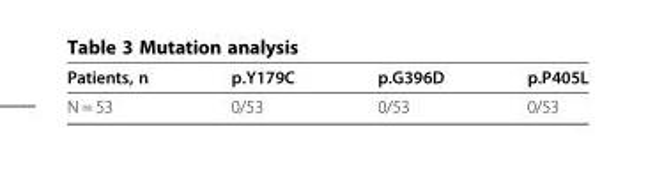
<table><thead><tr><td>Patients, n</td><td>p.Y179C</td><td>p.G396D</td><td>p.P405L</td></tr></thead><tbody><tr><td>N = 53</td><td>0/53</td><td>0/53</td><td>0/53</td></tr></tbody></table>